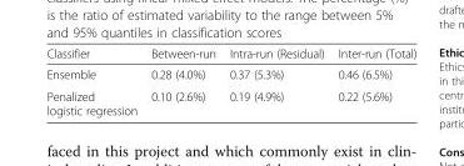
<table><thead><tr><td>Classifier</td><td>Between-run</td><td>Intra-run (Residual)</td><td>Inter-run (Total)</td></tr></thead><tbody><tr><td>Ensemble</td><td>0.28 (4.0%)</td><td>0.37 (5.3%)</td><td>0.46 (6.5%)</td></tr><tr><td>Penalized logistic regression</td><td>0.10 (2.6%)</td><td>0.19 (4.9%)</td><td>0.22 (5.6%)</td></tr></tbody></table>